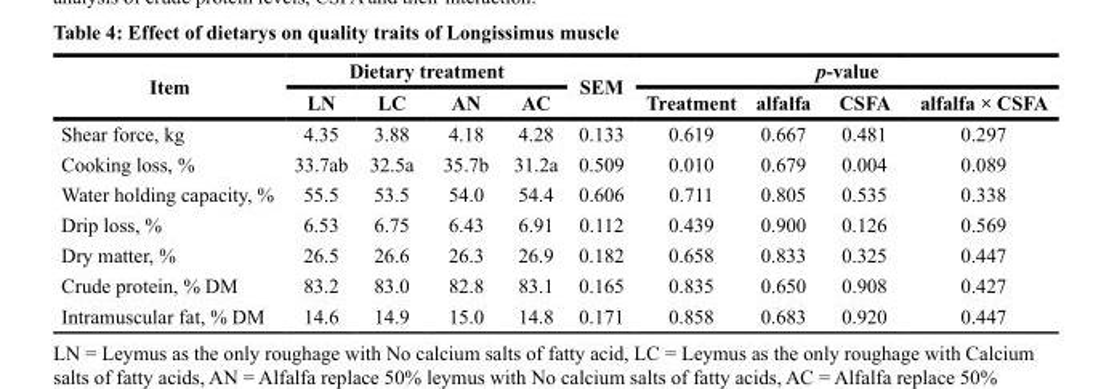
<table><thead><tr><td rowspan="2">Item</td><td colspan="4">Dietary treatment</td><td rowspan="2">SEM</td><td colspan="4">p-value</td></tr><tr><td>LN</td><td>LC</td><td>AN</td><td>AC</td><td>Treatment</td><td>alfalfa</td><td>CSFA</td><td>alfalfa × CSFA</td></tr></thead><tbody><tr><td>Shear force, kg</td><td>4.35</td><td>3.88</td><td>4.18</td><td>4.28</td><td>0.133</td><td>0.619</td><td>0.667</td><td>0.481</td><td>0.297</td></tr><tr><td>Cooking loss, %</td><td>33.7ab</td><td>32.5a</td><td>35.7b</td><td>31.2a</td><td>0.509</td><td>0.010</td><td>0.679</td><td>0.004</td><td>0.089</td></tr><tr><td>Water holding capacity, %</td><td>55.5</td><td>53.5</td><td>54.0</td><td>54.4</td><td>0.606</td><td>0.711</td><td>0.805</td><td>0.535</td><td>0.338</td></tr><tr><td>Drip loss, %</td><td>6.53</td><td>6.75</td><td>6.43</td><td>6.91</td><td>0.112</td><td>0.439</td><td>0.900</td><td>0.126</td><td>0.569</td></tr><tr><td>Dry matter, %</td><td>26.5</td><td>26.6</td><td>26.3</td><td>26.9</td><td>0.182</td><td>0.658</td><td>0.833</td><td>0.325</td><td>0.447</td></tr><tr><td>Crude protein, % DM</td><td>83.2</td><td>83.0</td><td>82.8</td><td>83.1</td><td>0.165</td><td>0.835</td><td>0.650</td><td>0.908</td><td>0.427</td></tr><tr><td>Intramuscular fat, % DM</td><td>14.6</td><td>14.9</td><td>15.0</td><td>14.8</td><td>0.171</td><td>0.858</td><td>0.683</td><td>0.920</td><td>0.447</td></tr></tbody></table>